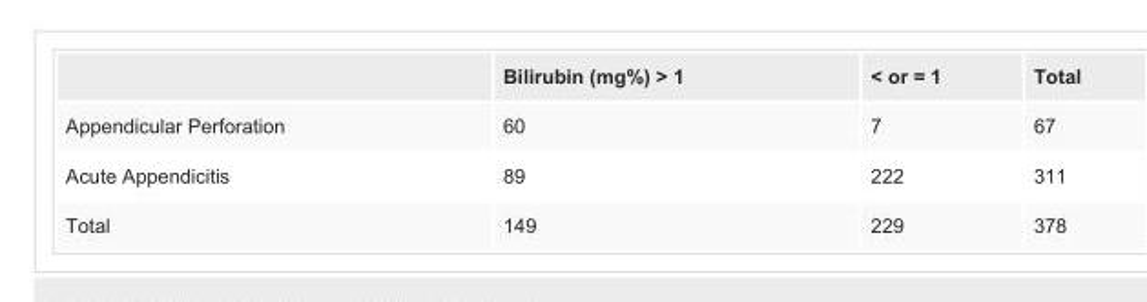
<table><thead><tr><td></td><td>Bilirubin (mg%) &gt; 1</td><td>&lt; or = 1</td><td>Total</td></tr></thead><tbody><tr><td>Appendicular Perforation</td><td>60</td><td>7</td><td>67</td></tr><tr><td>Acute Appendicitis</td><td>89</td><td>222</td><td>311</td></tr><tr><td>Total</td><td>149</td><td>229</td><td>378</td></tr></tbody></table>